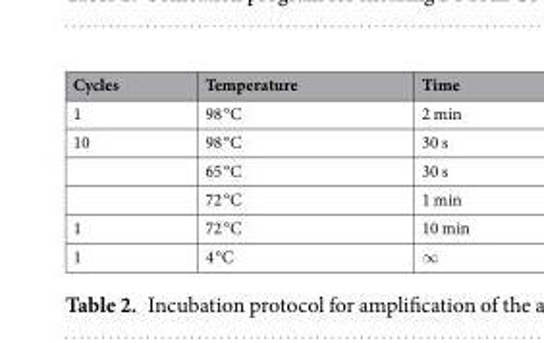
<table><thead><tr><td>Cycles</td><td>Temperature</td><td>Time</td></tr></thead><tbody><tr><td>1</td><td>98 °C</td><td>2 min</td></tr><tr><td rowspan="3">10</td><td>98 °C</td><td>30 s</td></tr><tr><td>65 °C</td><td>30 s</td></tr><tr><td>72 °C</td><td>1 min</td></tr><tr><td>1</td><td>72 °C</td><td>10 min</td></tr><tr><td>1</td><td>4 °C</td><td>∞</td></tr></tbody></table>